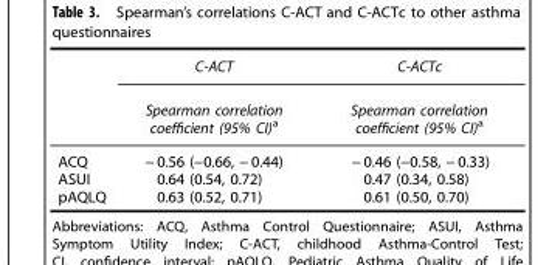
<table><thead><tr><td rowspan="2"></td><td rowspan="2">C-ACT Spearman correlation coefficient (95% CI)<sup>a</sup></td><td rowspan="2">C-ACTc Spearman correlation coefficient (95% CI)<sup>a</sup></td></tr><tr></tr></thead><tbody><tr><td>ACQ</td><td>− 0.56 (−0.66, − 0.44)</td><td>− 0.46 (−0.58, − 0.33)</td></tr><tr><td>ASUI</td><td>0.64 (0.54, 0.72)</td><td>0.47 (0.34, 0.58)</td></tr><tr><td>pAQLQ</td><td>0.63 (0.52, 0.71)</td><td>0.61 (0.50, 0.70)</td></tr></tbody></table>